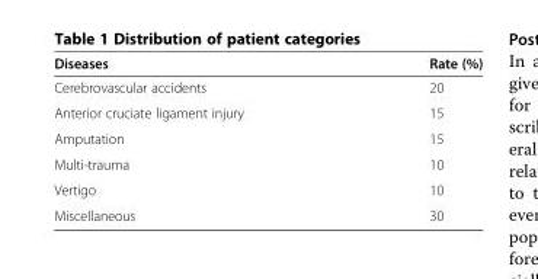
<table><thead><tr><td>Diseases</td><td>Rate (%)</td></tr></thead><tbody><tr><td>Cerebrovascular accidents</td><td>20</td></tr><tr><td>Anterior cruciate ligament injury</td><td>15</td></tr><tr><td>Amputation</td><td>15</td></tr><tr><td>Multi-trauma</td><td>10</td></tr><tr><td>Vertigo</td><td>10</td></tr><tr><td>Miscellaneous</td><td>30</td></tr></tbody></table>